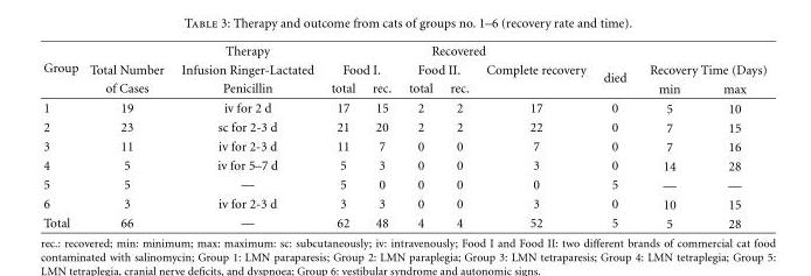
<table><thead><tr><td rowspan="3">Group</td><td rowspan="3">Total Number of Cases</td><td rowspan="3">Therapy Infusion Ringer-Lactated Penicillin</td><td colspan="5">Recovered</td><td rowspan="3">died</td><td></td><td></td></tr><tr><td colspan="2">Food I.</td><td colspan="2">Food II.</td><td rowspan="2">Complete recovery</td><td colspan="2">Recovery Time (Days)</td></tr><tr><td>total</td><td>rec.</td><td>total</td><td>rec.</td><td>min</td><td>max</td></tr></thead><tbody><tr><td>1</td><td>19</td><td>iv for 2 d</td><td>17</td><td>15</td><td>2</td><td>2</td><td>17</td><td>0</td><td>5</td><td>10</td></tr><tr><td>2</td><td>23</td><td>sc for 2-3 d</td><td>21</td><td>20</td><td>2</td><td>2</td><td>22</td><td>0</td><td>7</td><td>15</td></tr><tr><td>3</td><td>11</td><td>iv for 2-3 d</td><td>11</td><td>7</td><td>0</td><td>0</td><td>7</td><td>0</td><td>7</td><td>16</td></tr><tr><td>4</td><td>5</td><td>iv for 5–7 d</td><td>5</td><td>3</td><td>0</td><td>0</td><td>3</td><td>0</td><td>14</td><td>28</td></tr><tr><td>5</td><td>5</td><td>—</td><td>5</td><td>0</td><td>0</td><td>0</td><td>0</td><td>5</td><td>—</td><td>—</td></tr><tr><td>6</td><td>3</td><td>iv for 2-3 d</td><td>3</td><td>3</td><td>0</td><td>0</td><td>3</td><td>0</td><td>10</td><td>15</td></tr><tr><td>Total</td><td>66</td><td>—</td><td>62</td><td>48</td><td>4</td><td>4</td><td>52</td><td>5</td><td>5</td><td>28</td></tr></tbody></table>